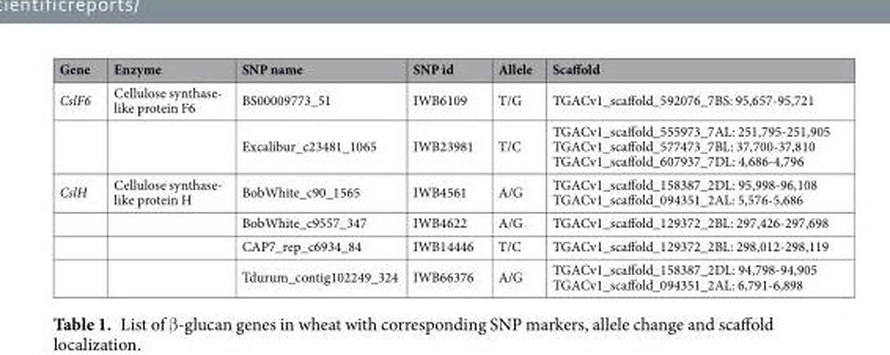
<table><thead><tr><td>Gene</td><td>Enzyme</td><td>SNP name</td><td>SNP id</td><td>Allele</td><td>Scaffold</td></tr></thead><tbody><tr><td rowspan="2">CslF6</td><td>Cellulose synthase- like protein F6</td><td>BS00009773_51</td><td>IWB6109</td><td>T/G</td><td>TGACv1_scaffold_592076_7BS: 95,657-95,721</td></tr><tr><td></td><td>Excalibur_c23481_1065</td><td>IWB23981</td><td>T/C</td><td>TGACv1_scaffold_555973_7AL: 251,795-251,905 TGACv1_scaffold_577473_7BL: 37,700-37,810 TGACv1_scaffold_607937_7DL: 4,686-4,796</td></tr><tr><td rowspan="4">CslH</td><td>Cellulose synthase- like protein H</td><td>BobWhite_c90_1565</td><td>IWB4561</td><td>A/G</td><td>TGACv1_scaffold_158387_2DL: 95,998-96,108 TGACv1_scaffold_094351_2AL: 5,576-5,686</td></tr><tr><td></td><td>BobWhite_c9557_347</td><td>IWB4622</td><td>A/G</td><td>TGACv1_scaffold_129372_2BL: 297,426-297,698</td></tr><tr><td></td><td>CAP7_rep_c6934_84</td><td>IWB14446</td><td>T/C</td><td>TGACv1_scaffold_129372_2BL: 298,012-298,119</td></tr><tr><td></td><td>Tdurum_contig102249_324</td><td>IWB66376</td><td>A/G</td><td>TGACv1_scaffold_158387_2DL: 94,798-94,905 TGACv1_scaffold_094351_2AL: 6,791-6,898</td></tr></tbody></table>